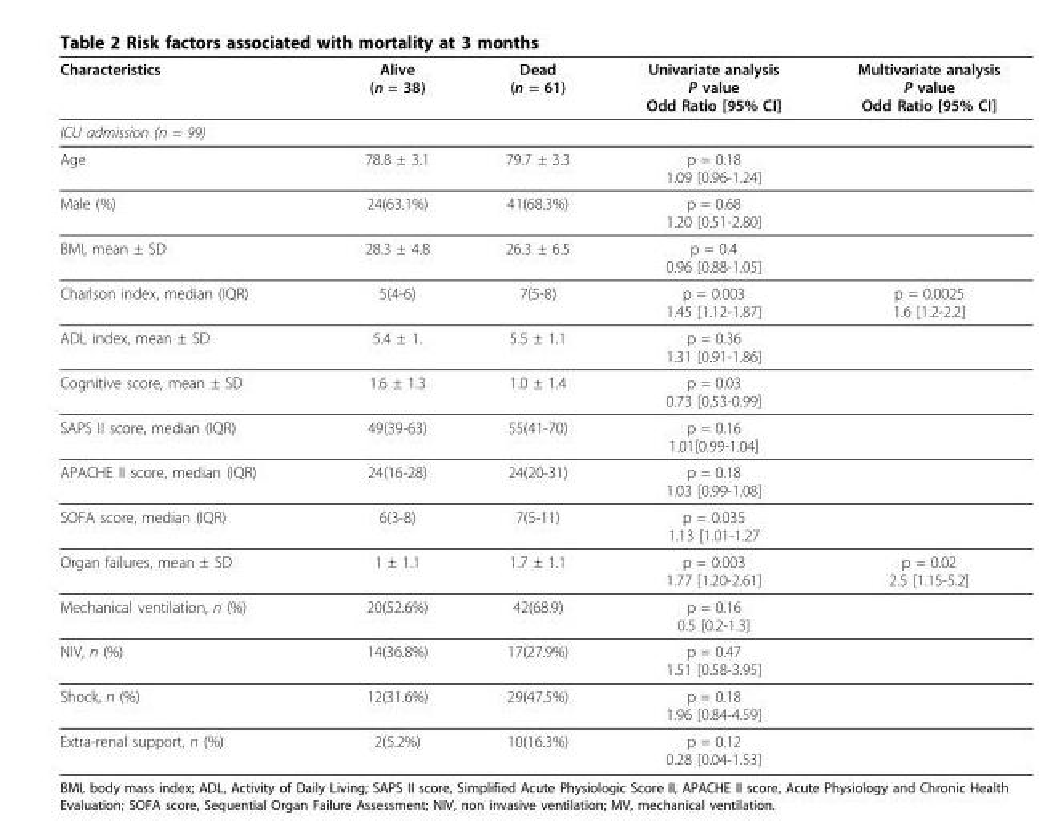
<table><thead><tr><td>Characteristics</td><td>Alive (n = 38)</td><td>Dead (n = 61)</td><td>Univariate analysis P value Odd Ratio [95% CI]</td><td>Multivariate analysis P value Odd Ratio [95% CI]</td></tr></thead><tbody><tr><td colspan="5">ICU admission (n = 99)</td></tr><tr><td>Age</td><td>78.8 ± 3.1</td><td>79.7 ± 3.3</td><td>p = 0.18 1.09 [0.96-1.24]</td><td></td></tr><tr><td>Male (%)</td><td>24(63.1%)</td><td>41(68.3%)</td><td>p = 0.68 1.20 [0.51-2.80]</td><td></td></tr><tr><td>BMI, mean ± SD</td><td>28.3 ± 4.8</td><td>26.3 ± 6.5</td><td>p = 0.4 0.96 [0.88-1.05]</td><td></td></tr><tr><td>Charlson index, median (IQR)</td><td>5(4-6)</td><td>7(5-8)</td><td>p = 0.003 1.45 [1.12-1.87]</td><td>p = 0.0025 1.6 [1.2-2.2]</td></tr><tr><td>ADL index, mean ± SD</td><td>5.4 ± 1.</td><td>5.5 ± 1.1</td><td>p = 0.36 1.31 [0.91-1.86]</td><td></td></tr><tr><td>Cognitive score, mean ± SD</td><td>1.6 ± 1.3</td><td>1.0 ± 1.4</td><td>p = 0.03 0.73 [0.53-0.99]</td><td></td></tr><tr><td>SAPS II score, median (IQR)</td><td>49(39-63)</td><td>55(41-70)</td><td>p = 0.16 1.01[0.99-1.04]</td><td></td></tr><tr><td>APACHE II score, median (IQR)</td><td>24(16-28)</td><td>24(20-31)</td><td>p = 0.18 1.03 [0.99-1.08]</td><td></td></tr><tr><td>SOFA score, median (IQR)</td><td>6(3-8)</td><td>7(5-11)</td><td>p = 0.035 1.13 [1.01-1.27</td><td></td></tr><tr><td>Organ failures, mean ± SD</td><td>1 ± 1.1</td><td>1.7 ± 1.1</td><td>p = 0.003 1.77 [1.20-2.61]</td><td>p = 0.02 2.5 [1.15-5.2]</td></tr><tr><td>Mechanical ventilation, n (%)</td><td>20(52.6%)</td><td>42(68.9)</td><td>p = 0.16 0.5 [0.2-1.3]</td><td></td></tr><tr><td>NIV, n (%)</td><td>14(36.8%)</td><td>17(27.9%)</td><td>p = 0.47 1.51 [0.58-3.95]</td><td></td></tr><tr><td>Shock, n (%)</td><td>12(31.6%)</td><td>29(47.5%)</td><td>p = 0.18 1.96 [0.84-4.59]</td><td></td></tr><tr><td>Extra-renal support, n (%)</td><td>2(5.2%)</td><td>10(16.3%)</td><td>p = 0.12 0.28 [0.04-1.53]</td><td></td></tr></tbody></table>